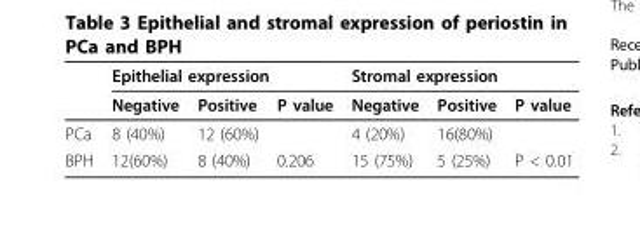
<table><thead><tr><td rowspan="2"></td><td colspan="3">Epithelial expression</td><td colspan="3">Stromal expression</td></tr><tr><td>Negative</td><td>Positive</td><td>P value</td><td>Negative</td><td>Positive</td><td>P value</td></tr></thead><tbody><tr><td>PCa</td><td>8 (40%)</td><td>12 (60%)</td><td></td><td>4 (20%)</td><td>16(80%)</td><td></td></tr><tr><td>BPH</td><td>12(60%)</td><td>8 (40%)</td><td>0.206</td><td>15 (75%)</td><td>5 (25%)</td><td>P &lt; 0.01</td></tr></tbody></table>